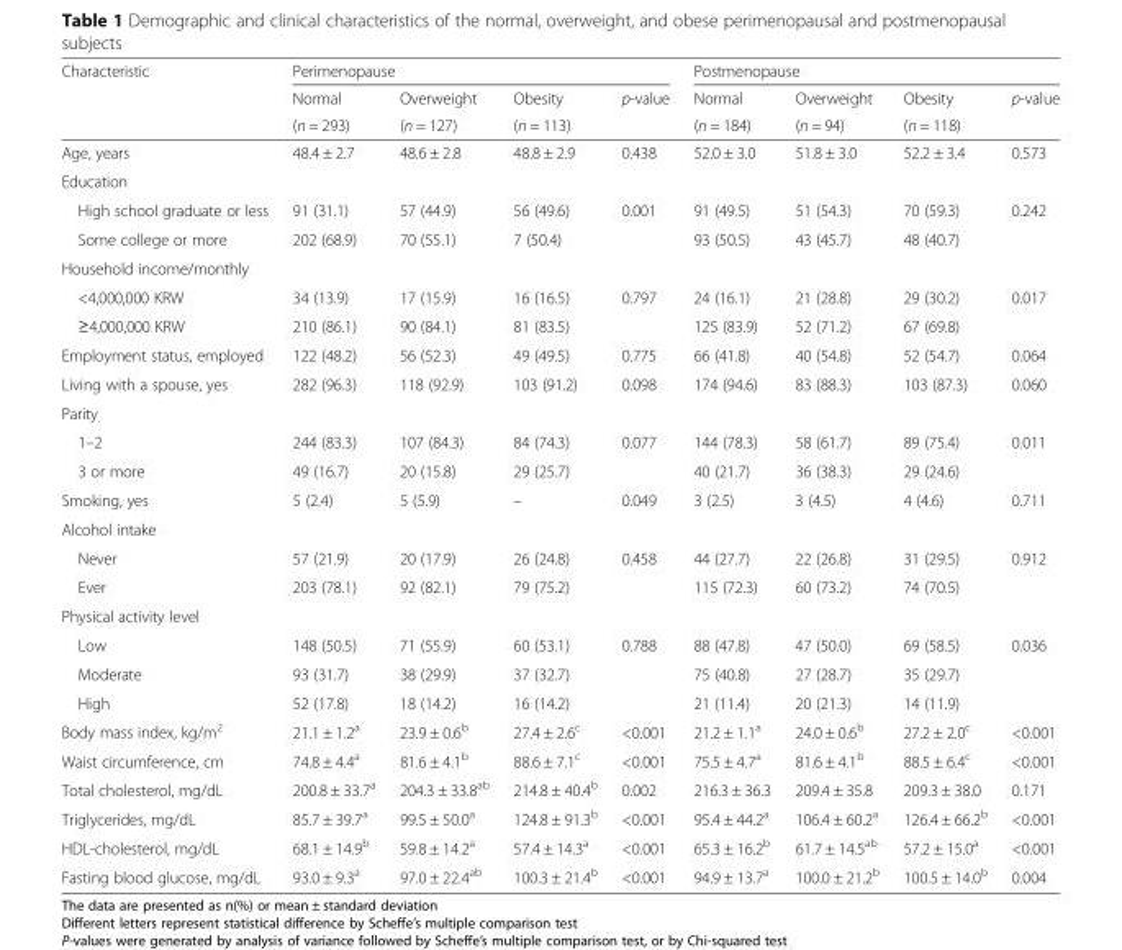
<table><thead><tr><td rowspan="3">Characteristic</td><td colspan="4">Perimenopause</td><td colspan="4">Postmenopause</td></tr><tr><td rowspan="2">Normal (n = 293)</td><td rowspan="2">Overweight (n = 127)</td><td rowspan="2">Obesity (n = 113)</td><td rowspan="2">p-value</td><td rowspan="2">Normal (n = 184)</td><td rowspan="2">Overweight (n = 94)</td><td rowspan="2">Obesity (n = 118)</td><td rowspan="2">p-value</td></tr><tr></tr></thead><tbody><tr><td>Age, years</td><td>48.4 ± 2.7</td><td>48.6 ± 2.8</td><td>48.8 ± 2.9</td><td>0.438</td><td>52.0 ± 3.0</td><td>51.8 ± 3.0</td><td>52.2 ± 3.4</td><td>0.573</td></tr><tr><td colspan="9">Education</td></tr><tr><td>High school graduate or less</td><td>91 (31.1)</td><td>57 (44.9)</td><td>56 (49.6)</td><td rowspan="2">0.001</td><td>91 (49.5)</td><td>51 (54.3)</td><td>70 (59.3)</td><td rowspan="2">0.242</td></tr><tr><td>Some college or more</td><td>202 (68.9)</td><td>70 (55.1)</td><td>7 (50.4)</td><td>93 (50.5)</td><td>43 (45.7)</td><td>48 (40.7)</td></tr><tr><td colspan="9">Household income/monthly</td></tr><tr><td>&lt;4,000,000 KRW</td><td>34 (13.9)</td><td>17 (15.9)</td><td>16 (16.5)</td><td rowspan="2">0.797</td><td>24 (16.1)</td><td>21 (28.8)</td><td>29 (30.2)</td><td rowspan="2">0.017</td></tr><tr><td>≥4,000,000 KRW</td><td>210 (86.1)</td><td>90 (84.1)</td><td>81 (83.5)</td><td>125 (83.9)</td><td>52 (71.2)</td><td>67 (69.8)</td></tr><tr><td>Employment status, employed</td><td>122 (48.2)</td><td>56 (52.3)</td><td>49 (49.5)</td><td>0.775</td><td>66 (41.8)</td><td>40 (54.8)</td><td>52 (54.7)</td><td>0.064</td></tr><tr><td>Living with a spouse, yes</td><td>282 (96.3)</td><td>118 (92.9)</td><td>103 (91.2)</td><td>0.098</td><td>174 (94.6)</td><td>83 (88.3)</td><td>103 (87.3)</td><td>0.060</td></tr><tr><td colspan="9">Parity</td></tr><tr><td>1–2</td><td>244 (83.3)</td><td>107 (84.3)</td><td>84 (74.3)</td><td rowspan="2">0.077</td><td>144 (78.3)</td><td>58 (61.7)</td><td>89 (75.4)</td><td rowspan="2">0.011</td></tr><tr><td>3 or more</td><td>49 (16.7)</td><td>20 (15.8)</td><td>29 (25.7)</td><td>40 (21.7)</td><td>36 (38.3)</td><td>29 (24.6)</td></tr><tr><td>Smoking, yes</td><td>5 (2.4)</td><td>5 (5.9)</td><td>–</td><td>0.049</td><td>3 (2.5)</td><td>3 (4.5)</td><td>4 (4.6)</td><td>0.711</td></tr><tr><td colspan="9">Alcohol intake</td></tr><tr><td>Never</td><td>57 (21.9)</td><td>20 (17.9)</td><td>26 (24.8)</td><td rowspan="2">0.458</td><td>44 (27.7)</td><td>22 (26.8)</td><td>31 (29.5)</td><td rowspan="2">0.912</td></tr><tr><td>Ever</td><td>203 (78.1)</td><td>92 (82.1)</td><td>79 (75.2)</td><td>115 (72.3)</td><td>60 (73.2)</td><td>74 (70.5)</td></tr><tr><td colspan="9">Physical activity level</td></tr><tr><td>Low</td><td>148 (50.5)</td><td>71 (55.9)</td><td>60 (53.1)</td><td rowspan="3">0.788</td><td>88 (47.8)</td><td>47 (50.0)</td><td>69 (58.5)</td><td rowspan="3">0.036</td></tr><tr><td>Moderate</td><td>93 (31.7)</td><td>38 (29.9)</td><td>37 (32.7)</td><td>75 (40.8)</td><td>27 (28.7)</td><td>35 (29.7)</td></tr><tr><td>High</td><td>52 (17.8)</td><td>18 (14.2)</td><td>16 (14.2)</td><td>21 (11.4)</td><td>20 (21.3)</td><td>14 (11.9)</td></tr><tr><td>Body mass index, kg/m<sup>2</sup></td><td>21.1 ± 1.2<sup>a</sup></td><td>23.9 ± 0.6<sup>b</sup></td><td>27.4 ± 2.6<sup>c</sup></td><td>&lt;0.001</td><td>21.2 ± 1.1<sup>a</sup></td><td>24.0 ± 0.6<sup>b</sup></td><td>27.2 ± 2.0<sup>c</sup></td><td>&lt;0.001</td></tr><tr><td>Waist circumference, cm</td><td>74.8 ± 4.4<sup>a</sup></td><td>81.6 ± 4.1<sup>b</sup></td><td>88.6 ± 7.1<sup>c</sup></td><td>&lt;0.001</td><td>75.5 ± 4.7<sup>a</sup></td><td>81.6 ± 4.1<sup>b</sup></td><td>88.5 ± 6.4<sup>c</sup></td><td>&lt;0.001</td></tr><tr><td>Total cholesterol, mg/dL</td><td>200.8 ± 33.7<sup>a</sup></td><td>204.3 ± 33.8<sup>ab</sup></td><td>214.8 ± 40.4<sup>b</sup></td><td>0.002</td><td>216.3 ± 36.3</td><td>209.4 ± 35.8</td><td>209.3 ± 38.0</td><td>0.171</td></tr><tr><td>Triglycerides, mg/dL</td><td>85.7 ± 39.7<sup>a</sup></td><td>99.5 ± 50.0<sup>a</sup></td><td>124.8 ± 91.3<sup>b</sup></td><td>&lt;0.001</td><td>95.4 ± 44.2<sup>a</sup></td><td>106.4 ± 60.2<sup>a</sup></td><td>126.4 ± 66.2<sup>b</sup></td><td>&lt;0.001</td></tr><tr><td>HDL-cholesterol, mg/dL</td><td>68.1 ± 14.9<sup>b</sup></td><td>59.8 ± 14.2<sup>a</sup></td><td>57.4 ± 14.3<sup>a</sup></td><td>&lt;0.001</td><td>65.3 ± 16.2<sup>b</sup></td><td>61.7 ± 14.5<sup>ab</sup></td><td>57.2 ± 15.0<sup>a</sup></td><td>&lt;0.001</td></tr><tr><td>Fasting blood glucose, mg/dL</td><td>93.0 ± 9.3<sup>a</sup></td><td>97.0 ± 22.4<sup>ab</sup></td><td>100.3 ± 21.4<sup>b</sup></td><td>&lt;0.001</td><td>94.9 ± 13.7<sup>a</sup></td><td>100.0 ± 21.2<sup>b</sup></td><td>100.5 ± 14.0<sup>b</sup></td><td>0.004</td></tr></tbody></table>